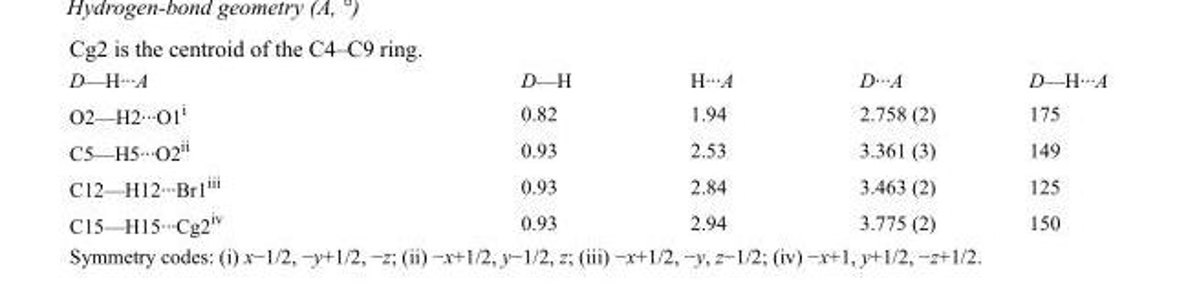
<table><tbody><tr><td>D—H···A</td><td>D—H</td><td>H···A</td><td>D···A</td><td>D—H···A</td></tr><tr><td>O2—H2···O1<sup>i</sup></td><td>0.82</td><td>1.94</td><td>2.758 (2)</td><td>175</td></tr><tr><td>C5—H5···O2<sup>ii</sup></td><td>0.93</td><td>2.53</td><td>3.361 (3)</td><td>149</td></tr><tr><td>C12—H12···Br1<sup>iii</sup></td><td>0.93</td><td>2.84</td><td>3.463 (2)</td><td>125</td></tr><tr><td>C15—H15···Cg2<sup>iv</sup></td><td>0.93</td><td>2.94</td><td>3.775 (2)</td><td>150</td></tr></tbody></table>